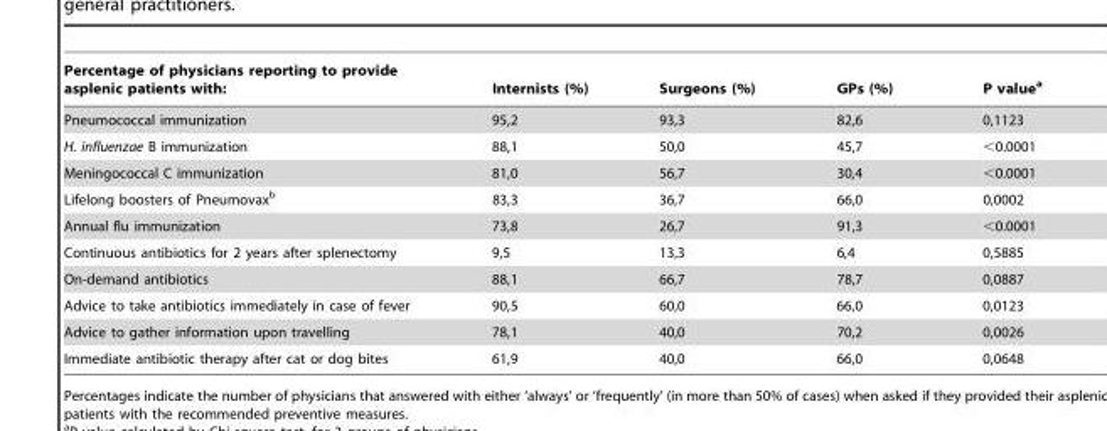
<table><thead><tr><td>Percentage of physicians reporting to provide asplenic patients with:</td><td>Internists (%)</td><td>Surgeons (%)</td><td>GPs (%)</td><td>P value<sup>a</sup></td></tr></thead><tbody><tr><td>Pneumococcal immunization</td><td>95,2</td><td>93,3</td><td>82,6</td><td>0,1123</td></tr><tr><td>H. influenzae B immunization</td><td>88,1</td><td>50,0</td><td>45,7</td><td>&lt;0.0001</td></tr><tr><td>Meningococcal C immunization</td><td>81,0</td><td>56,7</td><td>30,4</td><td>&lt;0.0001</td></tr><tr><td>Lifelong boosters of Pneumovax<sup>b</sup></td><td>83,3</td><td>36,7</td><td>66,0</td><td>0,0002</td></tr><tr><td>Annual flu immunization</td><td>73,8</td><td>26,7</td><td>91,3</td><td>&lt;0.0001</td></tr><tr><td>Continuous antibiotics for 2 years after splenectomy</td><td>9,5</td><td>13,3</td><td>6,4</td><td>0,5885</td></tr><tr><td>On-demand antibiotics</td><td>88,1</td><td>66,7</td><td>78,7</td><td>0,0887</td></tr><tr><td>Advice to take antibiotics immediately in case of fever</td><td>90,5</td><td>60,0</td><td>66,0</td><td>0,0123</td></tr><tr><td>Advice to gather information upon travelling</td><td>78,1</td><td>40,0</td><td>70,2</td><td>0,0026</td></tr><tr><td>Immediate antibiotic therapy after cat or dog bites</td><td>61,9</td><td>40,0</td><td>66,0</td><td>0,0648</td></tr></tbody></table>